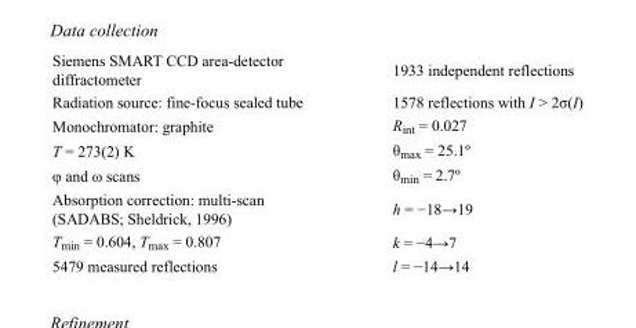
<table><tbody><tr><td>Siemens SMART CCD area-detector diffractometer</td><td>1933 independent reflections</td></tr><tr><td>Radiation source: fine-focus sealed tube</td><td>1578 reflections with I &gt; 2σ(I)</td></tr><tr><td>Monochromator: graphite</td><td>R<sub>int</sub> = 0.027</td></tr><tr><td>T = 273(2) K</td><td>θ<sub>max</sub> = 25.1º</td></tr><tr><td>φ and ω scans</td><td>θ<sub>min</sub> = 2.7º</td></tr><tr><td>Absorption correction: multi-scan (SADABS; Sheldrick, 1996)</td><td>h = −18→19</td></tr><tr><td>T<sub>min</sub> = 0.604, T<sub>max</sub> = 0.807</td><td>k = −4→7</td></tr><tr><td>5479 measured reflections</td><td>l = −14→14</td></tr></tbody></table>